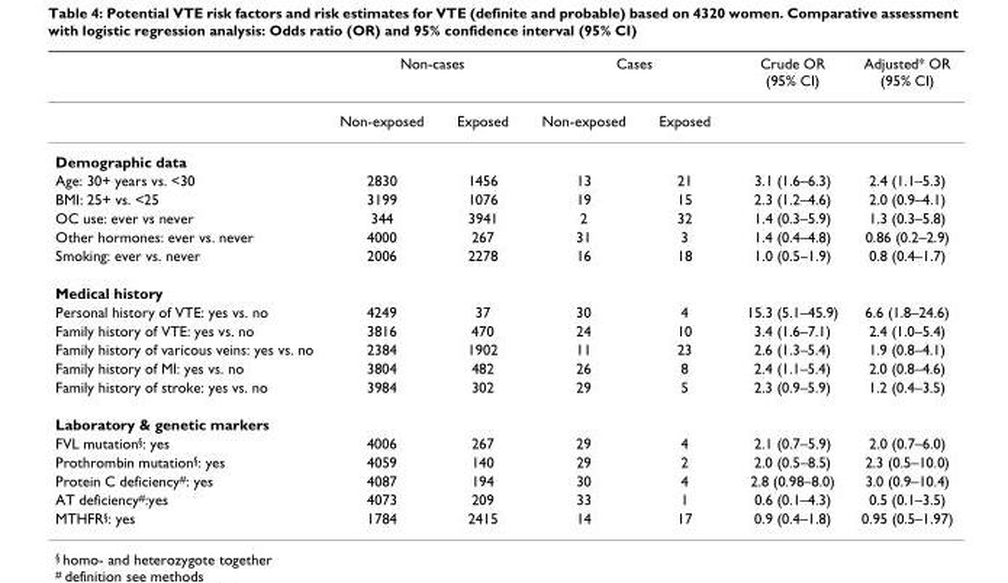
<table><thead><tr><td rowspan="2"></td><td colspan="2">Non-cases</td><td colspan="2">Cases</td><td rowspan="2">Crude OR (95% CI)</td><td rowspan="2">Adjusted* OR (95% CI)</td></tr><tr><td>Non-exposed</td><td>Exposed</td><td>Non-exposed</td><td>Exposed</td></tr></thead><tbody><tr><td colspan="7">Demographic data</td></tr><tr><td>Age: 30+ years vs. &lt;30</td><td>2830</td><td>1456</td><td>13</td><td>21</td><td>3.1 (1.6–6.3)</td><td>2.4 (1.1–5.3)</td></tr><tr><td>BMI: 25+ vs. &lt;25</td><td>3199</td><td>1076</td><td>19</td><td>15</td><td>2.3 (1.2–4.6)</td><td>2.0 (0.9–4.1)</td></tr><tr><td>OC use: ever vs never</td><td>344</td><td>3941</td><td>2</td><td>32</td><td>1.4 (0.3–5.9)</td><td>1.3 (0.3–5.8)</td></tr><tr><td>Other hormones: ever vs. never</td><td>4000</td><td>267</td><td>31</td><td>3</td><td>1.4 (0.4–4.8)</td><td>0.86 (0.2–2.9)</td></tr><tr><td>Smoking: ever vs. never</td><td>2006</td><td>2278</td><td>16</td><td>18</td><td>1.0 (0.5–1.9)</td><td>0.8 (0.4–1.7)</td></tr><tr><td colspan="7">Medical history</td></tr><tr><td>Personal history of VTE: yes vs. no</td><td>4249</td><td>37</td><td>30</td><td>4</td><td>15.3 (5.1–45.9)</td><td>6.6 (1.8–24.6)</td></tr><tr><td>Family history of VTE: yes vs. no</td><td>3816</td><td>470</td><td>24</td><td>10</td><td>3.4 (1.6–7.1)</td><td>2.4 (1.0–5.4)</td></tr><tr><td>Family history of varicous veins: yes vs. no</td><td>2384</td><td>1902</td><td>11</td><td>23</td><td>2.6 (1.3–5.4)</td><td>1.9 (0.8–4.1)</td></tr><tr><td>Family history of MI: yes vs. no</td><td>3804</td><td>482</td><td>26</td><td>8</td><td>2.4 (1.1–5.4)</td><td>2.0 (0.8–4.6)</td></tr><tr><td>Family history of stroke: yes vs. no</td><td>3984</td><td>302</td><td>29</td><td>5</td><td>2.3 (0.9–5.9)</td><td>1.2 (0.4–3.5)</td></tr><tr><td colspan="7">Laboratory &amp; genetic markers</td></tr><tr><td>FVL mutation<sup>§</sup>: yes</td><td>4006</td><td>267</td><td>29</td><td>4</td><td>2.1 (0.7–5.9)</td><td>2.0 (0.7–6.0)</td></tr><tr><td>Prothrombin mutation<sup>§</sup>: yes</td><td>4059</td><td>140</td><td>29</td><td>2</td><td>2.0 (0.5–8.5)</td><td>2.3 (0.5–10.0)</td></tr><tr><td>Protein C deficiency<sup>#</sup>: yes</td><td>4087</td><td>194</td><td>30</td><td>4</td><td>2.8 (0.98–8.0)</td><td>3.0 (0.9–10.4)</td></tr><tr><td>AT deficiency<sup>#</sup>:yes</td><td>4073</td><td>209</td><td>33</td><td>1</td><td>0.6 (0.1–4.3)</td><td>0.5 (0.1–3.5)</td></tr><tr><td>MTHFR<sup>§</sup>: yes</td><td>1784</td><td>2415</td><td>14</td><td>17</td><td>0.9 (0.4–1.8)</td><td>0.95 (0.5–1.97)</td></tr></tbody></table>